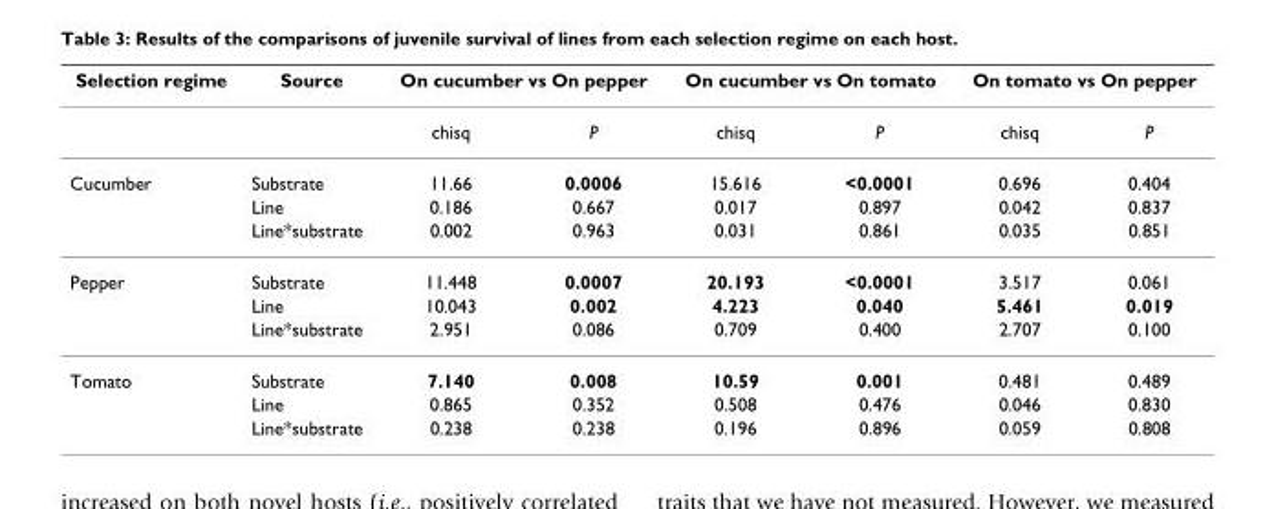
<table><thead><tr><td rowspan="2">Selection regime</td><td rowspan="2">Source</td><td colspan="2">On cucumber vs On pepper</td><td colspan="2">On cucumber vs On tomato</td><td colspan="2">On tomato vs On pepper</td></tr><tr><td>chisq</td><td>P</td><td>chisq</td><td>P</td><td>chisq</td><td>P</td></tr></thead><tbody><tr><td rowspan="3">Cucumber</td><td>Substrate</td><td>11.66</td><td>0.0006</td><td>15.616</td><td>&lt;0.0001</td><td>0.696</td><td>0.404</td></tr><tr><td>Line</td><td>0.186</td><td>0.667</td><td>0.017</td><td>0.897</td><td>0.042</td><td>0.837</td></tr><tr><td>Line*substrate</td><td>0.002</td><td>0.963</td><td>0.031</td><td>0.861</td><td>0.035</td><td>0.851</td></tr><tr><td rowspan="3">Pepper</td><td>Substrate</td><td>11.448</td><td>0.0007</td><td>20.193</td><td>&lt;0.0001</td><td>3.517</td><td>0.061</td></tr><tr><td>Line</td><td>10.043</td><td>0.002</td><td>4.223</td><td>0.040</td><td>5.461</td><td>0.019</td></tr><tr><td>Line*substrate</td><td>2.951</td><td>0.086</td><td>0.709</td><td>0.400</td><td>2.707</td><td>0.100</td></tr><tr><td rowspan="3">Tomato</td><td>Substrate</td><td>7.140</td><td>0.008</td><td>10.59</td><td>0.001</td><td>0.481</td><td>0.489</td></tr><tr><td>Line</td><td>0.865</td><td>0.352</td><td>0.508</td><td>0.476</td><td>0.046</td><td>0.830</td></tr><tr><td>Line*substrate</td><td>0.238</td><td>0.238</td><td>0.196</td><td>0.896</td><td>0.059</td><td>0.808</td></tr></tbody></table>